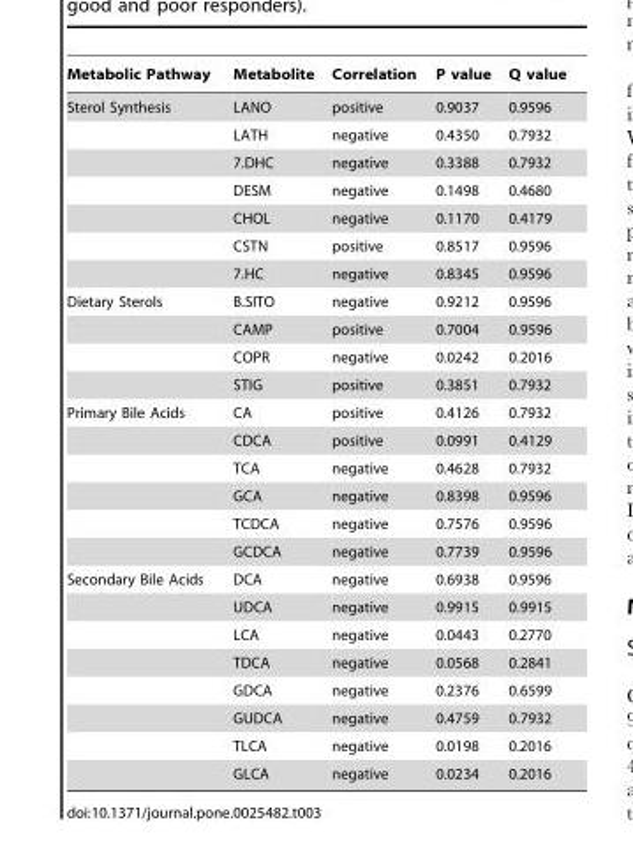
<table><thead><tr><td>Metabolic Pathway</td><td>Metabolite</td><td>Correlation</td><td>P value</td><td>Q value</td></tr></thead><tbody><tr><td rowspan="7">Sterol Synthesis</td><td>LANO</td><td>positive</td><td>0.9037</td><td>0.9596</td></tr><tr><td>LATH</td><td>negative</td><td>0.4350</td><td>0.7932</td></tr><tr><td>7.DHC</td><td>negative</td><td>0.3388</td><td>0.7932</td></tr><tr><td>DESM</td><td>negative</td><td>0.1498</td><td>0.4680</td></tr><tr><td>CHOL</td><td>negative</td><td>0.1170</td><td>0.4179</td></tr><tr><td>CSTN</td><td>positive</td><td>0.8517</td><td>0.9596</td></tr><tr><td>7.HC</td><td>negative</td><td>0.8345</td><td>0.9596</td></tr><tr><td rowspan="4">Dietary Sterols</td><td>B.SITO</td><td>negative</td><td>0.9212</td><td>0.9596</td></tr><tr><td>CAMP</td><td>positive</td><td>0.7004</td><td>0.9596</td></tr><tr><td>COPR</td><td>negative</td><td>0.0242</td><td>0.2016</td></tr><tr><td>STIG</td><td>positive</td><td>0.3851</td><td>0.7932</td></tr><tr><td rowspan="6">Primary Bile Acids</td><td>CA</td><td>positive</td><td>0.4126</td><td>0.7932</td></tr><tr><td>CDCA</td><td>positive</td><td>0.0991</td><td>0.4129</td></tr><tr><td>TCA</td><td>negative</td><td>0.4628</td><td>0.7932</td></tr><tr><td>GCA</td><td>negative</td><td>0.8398</td><td>0.9596</td></tr><tr><td>TCDCA</td><td>negative</td><td>0.7576</td><td>0.9596</td></tr><tr><td>GCDCA</td><td>negative</td><td>0.7739</td><td>0.9596</td></tr><tr><td rowspan="8">Secondary Bile Acids</td><td>DCA</td><td>negative</td><td>0.6938</td><td>0.9596</td></tr><tr><td>UDCA</td><td>negative</td><td>0.9915</td><td>0.9915</td></tr><tr><td>LCA</td><td>negative</td><td>0.0443</td><td>0.2770</td></tr><tr><td>TDCA</td><td>negative</td><td>0.0568</td><td>0.2841</td></tr><tr><td>GDCA</td><td>negative</td><td>0.2376</td><td>0.6599</td></tr><tr><td>GUDCA</td><td>negative</td><td>0.4759</td><td>0.7932</td></tr><tr><td>TLCA</td><td>negative</td><td>0.0198</td><td>0.2016</td></tr><tr><td>GLCA</td><td>negative</td><td>0.0234</td><td>0.2016</td></tr></tbody></table>